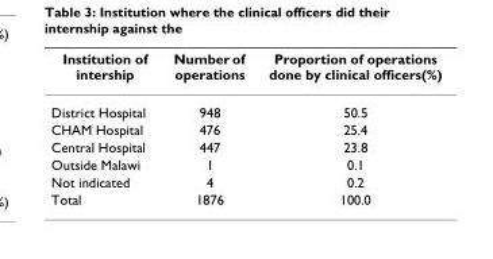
<table><thead><tr><td>Institution of intership</td><td>Number of operations</td><td>Proportion of operations done by clinical officers(%)</td></tr></thead><tbody><tr><td>District Hospital</td><td>948</td><td>50.5</td></tr><tr><td>CHAM Hospital</td><td>476</td><td>25.4</td></tr><tr><td>Central Hospital</td><td>447</td><td>23.8</td></tr><tr><td>Outside Malawi</td><td>1</td><td>0.1</td></tr><tr><td>Not indicated</td><td>4</td><td>0.2</td></tr><tr><td>Total</td><td>1876</td><td>100.0</td></tr></tbody></table>